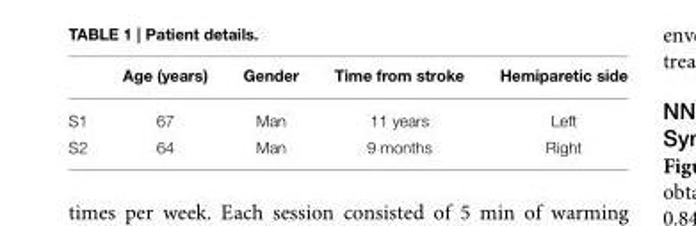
<table><thead><tr><td></td><td>Age (years)</td><td>Gender</td><td>Time from stroke</td><td>Hemiparetic side</td></tr></thead><tbody><tr><td>S1</td><td>67</td><td>Man</td><td>11 years</td><td>Left</td></tr><tr><td>S2</td><td>64</td><td>Man</td><td>9 months</td><td>Right</td></tr></tbody></table>